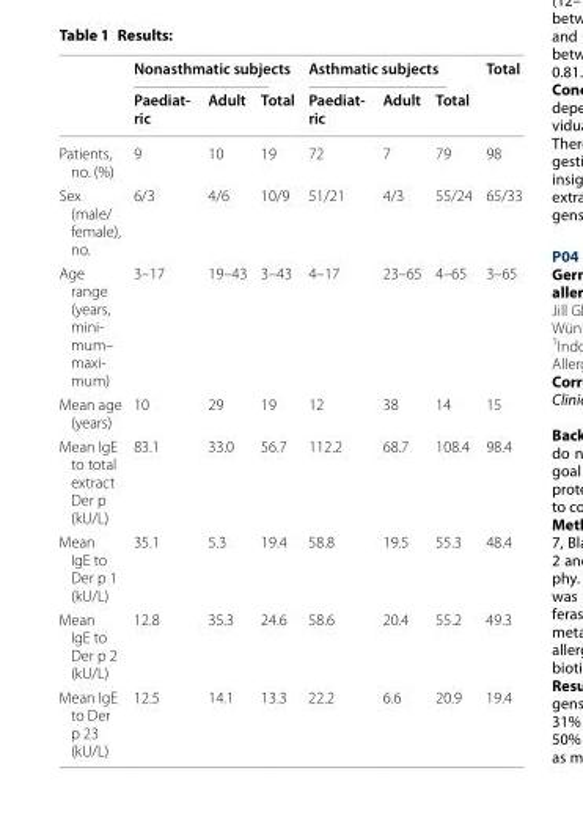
<table><thead><tr><td rowspan="2"></td><td colspan="3">Nonasthmatic subjects</td><td colspan="3">Asthmatic subjects</td><td rowspan="2">Total</td></tr><tr><td>Paediat‑ ric</td><td>Adult</td><td>Total</td><td>Paediat‑ ric</td><td>Adult</td><td>Total</td></tr></thead><tbody><tr><td>Patients, no. (%)</td><td>9</td><td>10</td><td>19</td><td>72</td><td>7</td><td>79</td><td>98</td></tr><tr><td>Sex (male/ female), no.</td><td>6/3</td><td>4/6</td><td>10/9</td><td>51/21</td><td>4/3</td><td>55/24</td><td>65/33</td></tr><tr><td>Age range (years, mini‑ mum– maxi‑ mum)</td><td>3–17</td><td>19–43</td><td>3–43</td><td>4–17</td><td>23–65</td><td>4–65</td><td>3–65</td></tr><tr><td>Mean age (years)</td><td>10</td><td>29</td><td>19</td><td>12</td><td>38</td><td>14</td><td>15</td></tr><tr><td>Mean IgE to total extract Der p (kU/L)</td><td>83.1</td><td>33.0</td><td>56.7</td><td>112.2</td><td>68.7</td><td>108.4</td><td>98.4</td></tr><tr><td>Mean IgE to Der p 1 (kU/L)</td><td>35.1</td><td>5.3</td><td>19.4</td><td>58.8</td><td>19.5</td><td>55.3</td><td>48.4</td></tr><tr><td>Mean IgE to Der p 2 (kU/L)</td><td>12.8</td><td>35.3</td><td>24.6</td><td>58.6</td><td>20.4</td><td>55.2</td><td>49.3</td></tr><tr><td>Mean IgE to Der p 23 (kU/L)</td><td>12.5</td><td>14.1</td><td>13.3</td><td>22.2</td><td>6.6</td><td>20.9</td><td>19.4</td></tr></tbody></table>